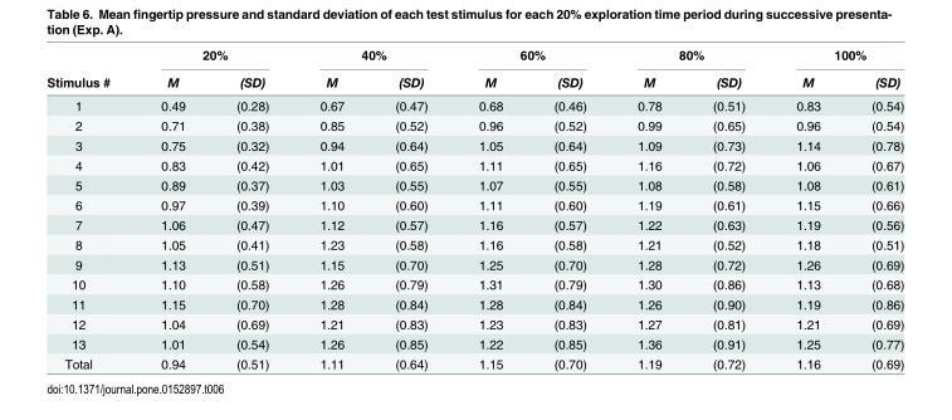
<table><thead><tr><td rowspan="2">Stimulus #</td><td colspan="2">20%</td><td colspan="2">40%</td><td colspan="2">60%</td><td colspan="2">80%</td><td colspan="2">100%</td></tr><tr><td>M</td><td>(SD)</td><td>M</td><td>(SD)</td><td>M</td><td>(SD)</td><td>M</td><td>(SD)</td><td>M</td><td>(SD)</td></tr></thead><tbody><tr><td>1</td><td>0.49</td><td>(0.28)</td><td>0.67</td><td>(0.47)</td><td>0.68</td><td>(0.46)</td><td>0.78</td><td>(0.51)</td><td>0.83</td><td>(0.54)</td></tr><tr><td>2</td><td>0.71</td><td>(0.38)</td><td>0.85</td><td>(0.52)</td><td>0.96</td><td>(0.52)</td><td>0.99</td><td>(0.65)</td><td>0.96</td><td>(0.54)</td></tr><tr><td>3</td><td>0.75</td><td>(0.32)</td><td>0.94</td><td>(0.64)</td><td>1.05</td><td>(0.64)</td><td>1.09</td><td>(0.73)</td><td>1.14</td><td>(0.78)</td></tr><tr><td>4</td><td>0.83</td><td>(0.42)</td><td>1.01</td><td>(0.65)</td><td>1.11</td><td>(0.65)</td><td>1.16</td><td>(0.72)</td><td>1.06</td><td>(0.67)</td></tr><tr><td>5</td><td>0.89</td><td>(0.37)</td><td>1.03</td><td>(0.55)</td><td>1.07</td><td>(0.55)</td><td>1.08</td><td>(0.58)</td><td>1.08</td><td>(0.61)</td></tr><tr><td>6</td><td>0.97</td><td>(0.39)</td><td>1.10</td><td>(0.60)</td><td>1.11</td><td>(0.60)</td><td>1.19</td><td>(0.61)</td><td>1.15</td><td>(0.66)</td></tr><tr><td>7</td><td>1.06</td><td>(0.47)</td><td>1.12</td><td>(0.57)</td><td>1.16</td><td>(0.57)</td><td>1.22</td><td>(0.63)</td><td>1.19</td><td>(0.56)</td></tr><tr><td>8</td><td>1.05</td><td>(0.41)</td><td>1.23</td><td>(0.58)</td><td>1.16</td><td>(0.58)</td><td>1.21</td><td>(0.52)</td><td>1.18</td><td>(0.51)</td></tr><tr><td>9</td><td>1.13</td><td>(0.51)</td><td>1.15</td><td>(0.70)</td><td>1.25</td><td>(0.70)</td><td>1.28</td><td>(0.72)</td><td>1.26</td><td>(0.69)</td></tr><tr><td>10</td><td>1.10</td><td>(0.58)</td><td>1.26</td><td>(0.79)</td><td>1.31</td><td>(0.79)</td><td>1.30</td><td>(0.86)</td><td>1.13</td><td>(0.68)</td></tr><tr><td>11</td><td>1.15</td><td>(0.70)</td><td>1.28</td><td>(0.84)</td><td>1.28</td><td>(0.84)</td><td>1.26</td><td>(0.90)</td><td>1.19</td><td>(0.86)</td></tr><tr><td>12</td><td>1.04</td><td>(0.69)</td><td>1.21</td><td>(0.83)</td><td>1.23</td><td>(0.83)</td><td>1.27</td><td>(0.81)</td><td>1.21</td><td>(0.69)</td></tr><tr><td>13</td><td>1.01</td><td>(0.54)</td><td>1.26</td><td>(0.85)</td><td>1.22</td><td>(0.85)</td><td>1.36</td><td>(0.91)</td><td>1.25</td><td>(0.77)</td></tr><tr><td>Total</td><td>0.94</td><td>(0.51)</td><td>1.11</td><td>(0.64)</td><td>1.15</td><td>(0.70)</td><td>1.19</td><td>(0.72)</td><td>1.16</td><td>(0.69)</td></tr></tbody></table>